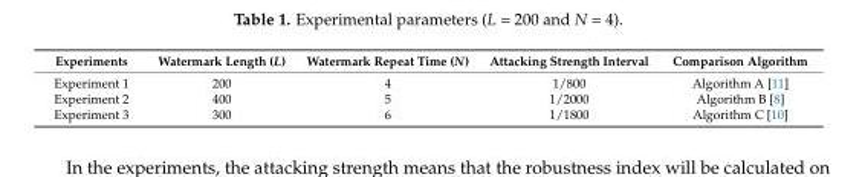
<table><thead><tr><td>Experiments</td><td>Watermark Length (L)</td><td>Watermark Repeat Time (N)</td><td>Attacking Strength Interval</td><td>Comparison Algorithm</td></tr></thead><tbody><tr><td>Experiment 1</td><td>200</td><td>4</td><td>1/800</td><td>Algorithm A [11]</td></tr><tr><td>Experiment 2</td><td>400</td><td>5</td><td>1/2000</td><td>Algorithm B [8]</td></tr><tr><td>Experiment 3</td><td>300</td><td>6</td><td>1/1800</td><td>Algorithm C [10]</td></tr></tbody></table>